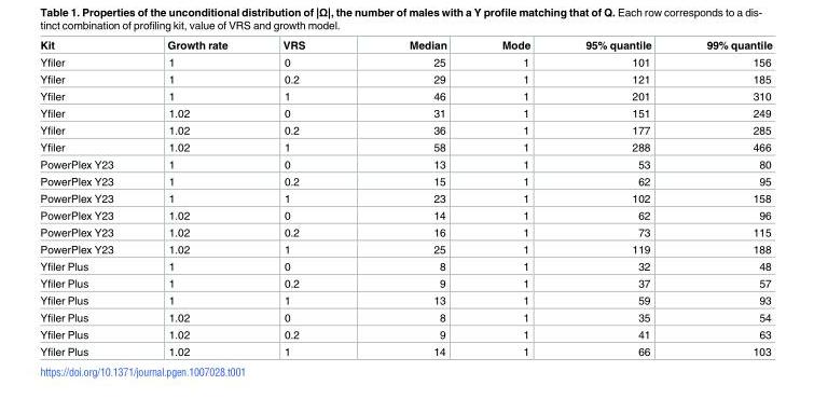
<table><thead><tr><td>Kit</td><td>Growth rate</td><td>VRS</td><td>Median</td><td>Mode</td><td>95% quantile</td><td>99% quantile</td></tr></thead><tbody><tr><td>Yfiler</td><td>1</td><td>0</td><td>25</td><td>1</td><td>101</td><td>156</td></tr><tr><td>Yfiler</td><td>1</td><td>0.2</td><td>29</td><td>1</td><td>121</td><td>185</td></tr><tr><td>Yfiler</td><td>1</td><td>1</td><td>46</td><td>1</td><td>201</td><td>310</td></tr><tr><td>Yfiler</td><td>1.02</td><td>0</td><td>31</td><td>1</td><td>151</td><td>249</td></tr><tr><td>Yfiler</td><td>1.02</td><td>0.2</td><td>36</td><td>1</td><td>177</td><td>285</td></tr><tr><td>Yfiler</td><td>1.02</td><td>1</td><td>58</td><td>1</td><td>288</td><td>466</td></tr><tr><td>PowerPlex Y23</td><td>1</td><td>0</td><td>13</td><td>1</td><td>53</td><td>80</td></tr><tr><td>PowerPlex Y23</td><td>1</td><td>0.2</td><td>15</td><td>1</td><td>62</td><td>95</td></tr><tr><td>PowerPlex Y23</td><td>1</td><td>1</td><td>23</td><td>1</td><td>102</td><td>158</td></tr><tr><td>PowerPlex Y23</td><td>1.02</td><td>0</td><td>14</td><td>1</td><td>62</td><td>96</td></tr><tr><td>PowerPlex Y23</td><td>1.02</td><td>0.2</td><td>16</td><td>1</td><td>73</td><td>115</td></tr><tr><td>PowerPlex Y23</td><td>1.02</td><td>1</td><td>25</td><td>1</td><td>119</td><td>188</td></tr><tr><td>Yfiler Plus</td><td>1</td><td>0</td><td>8</td><td>1</td><td>32</td><td>48</td></tr><tr><td>Yfiler Plus</td><td>1</td><td>0.2</td><td>9</td><td>1</td><td>37</td><td>57</td></tr><tr><td>Yfiler Plus</td><td>1</td><td>1</td><td>13</td><td>1</td><td>59</td><td>93</td></tr><tr><td>Yfiler Plus</td><td>1.02</td><td>0</td><td>8</td><td>1</td><td>35</td><td>54</td></tr><tr><td>Yfiler Plus</td><td>1.02</td><td>0.2</td><td>9</td><td>1</td><td>41</td><td>63</td></tr><tr><td>Yfiler Plus</td><td>1.02</td><td>1</td><td>14</td><td>1</td><td>66</td><td>103</td></tr></tbody></table>